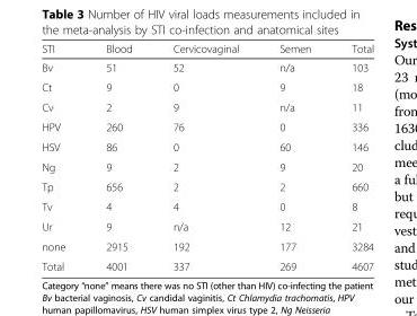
<table><thead><tr><td>STI</td><td>Blood</td><td>Cervicovaginal</td><td>Semen</td><td>Total</td></tr></thead><tbody><tr><td>Bv</td><td>51</td><td>52</td><td>n/a</td><td>103</td></tr><tr><td>Ct</td><td>9</td><td>0</td><td>9</td><td>18</td></tr><tr><td>Cv</td><td>2</td><td>9</td><td>n/a</td><td>11</td></tr><tr><td>HPV</td><td>260</td><td>76</td><td>0</td><td>336</td></tr><tr><td>HSV</td><td>86</td><td>0</td><td>60</td><td>146</td></tr><tr><td>Ng</td><td>9</td><td>2</td><td>9</td><td>20</td></tr><tr><td>Tp</td><td>656</td><td>2</td><td>2</td><td>660</td></tr><tr><td>Tv</td><td>4</td><td>4</td><td>0</td><td>8</td></tr><tr><td>Ur</td><td>9</td><td>n/a</td><td>12</td><td>21</td></tr><tr><td>none</td><td>2915</td><td>192</td><td>177</td><td>3284</td></tr><tr><td>Total</td><td>4001</td><td>337</td><td>269</td><td>4607</td></tr></tbody></table>